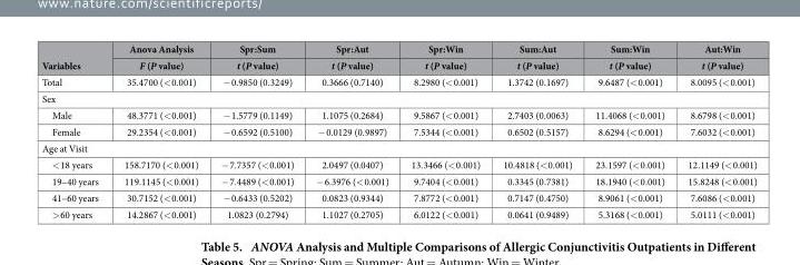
<table><thead><tr><td rowspan="2">Variables</td><td rowspan="2">Anova Analysis F (P value)</td><td rowspan="2">Spr:Sum t (P value)</td><td rowspan="2">Spr:Aut t (P value)</td><td rowspan="2">Spr:Win t (P value)</td><td rowspan="2">Sum:Aut t (P value)</td><td rowspan="2">Sum:Win t (P value)</td><td rowspan="2">Aut:Win t (P value)</td></tr><tr></tr></thead><tbody><tr><td>Total</td><td>35.4700 (&lt; 0.001)</td><td>− 0.9850 (0.3249)</td><td>0.3666 (0.7140)</td><td>8.2980 (&lt; 0.001)</td><td>1.3742 (0.1697)</td><td>9.6487 (&lt; 0.001)</td><td>8.0095 (&lt; 0.001)</td></tr><tr><td colspan="8">Sex</td></tr><tr><td>Male</td><td>48.3771 (&lt; 0.001)</td><td>− 1.5779 (0.1149)</td><td>1.1075 (0.2684)</td><td>9.5867 (&lt; 0.001)</td><td>2.7403 (0.0063)</td><td>11.4068 (&lt; 0.001)</td><td>8.6798 (&lt; 0.001)</td></tr><tr><td>Female</td><td>29.2354 (&lt; 0.001)</td><td>− 0.6592 (0.5100)</td><td>− 0.0129 (0.9897)</td><td>7.5344 (&lt; 0.001)</td><td>0.6502 (0.5157)</td><td>8.6294 (&lt; 0.001)</td><td>7.6032 (&lt; 0.001)</td></tr><tr><td colspan="8">Age at Visit</td></tr><tr><td>&lt; 18 years</td><td>158.7170 (&lt; 0.001)</td><td>− 7.7357 (&lt; 0.001)</td><td>2.0497 (0.0407)</td><td>13.3466 (&lt; 0.001)</td><td>10.4818 (&lt; 0.001)</td><td>23.1597 (&lt; 0.001)</td><td>12.1149 (&lt; 0.001)</td></tr><tr><td>19–40 years</td><td>119.1145 (&lt; 0.001)</td><td>− 7.4489 (&lt; 0.001)</td><td>− 6.3976 (&lt; 0.001)</td><td>9.7404 (&lt; 0.001)</td><td>0.3345 (0.7381)</td><td>18.1940 (&lt; 0.001)</td><td>15.8248 (&lt; 0.001)</td></tr><tr><td>41–60 years</td><td>30.7152 (&lt; 0.001)</td><td>− 0.6433 (0.5202)</td><td>0.0823 (0.9344)</td><td>7.8772 (&lt; 0.001)</td><td>0.7147 (0.4750)</td><td>8.9061 (&lt; 0.001)</td><td>7.6086 (&lt; 0.001)</td></tr><tr><td>&gt; 60 years</td><td>14.2867 (&lt; 0.001)</td><td>1.0823 (0.2794)</td><td>1.1027 (0.2705)</td><td>6.0122 (&lt; 0.001)</td><td>0.0641 (0.9489)</td><td>5.3168 (&lt; 0.001)</td><td>5.0111 (&lt; 0.001)</td></tr></tbody></table>